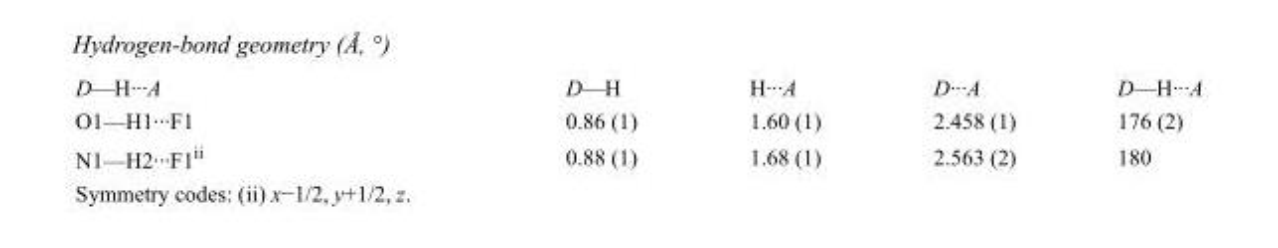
<table><tbody><tr><td>D—H···A</td><td>D—H</td><td>H···A</td><td>D···A</td><td>D—H···A</td></tr><tr><td>O1—H1···F1</td><td>0.86 (1)</td><td>1.60 (1)</td><td>2.458 (1)</td><td>176 (2)</td></tr><tr><td>N1—H2···F1<sup>ii</sup></td><td>0.88 (1)</td><td>1.68 (1)</td><td>2.563 (2)</td><td>180</td></tr></tbody></table>